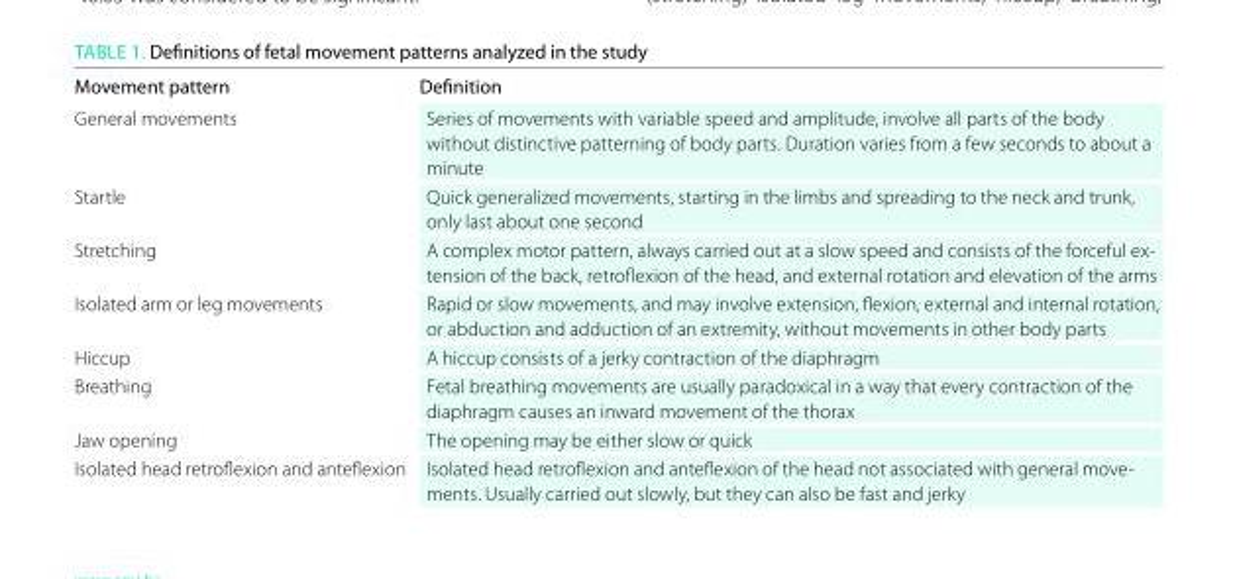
<table><thead><tr><td>movement pattern</td><td>Definition</td></tr></thead><tbody><tr><td>General movements</td><td>Series of movements with variable speed and amplitude, involve all parts of the body without distinctive patterning of body parts. Duration varies from a few seconds to about a minute</td></tr><tr><td>Startle</td><td>Quick generalized movements, starting in the limbs and spreading to the neck and trunk, only last about one second</td></tr><tr><td>Stretching</td><td>A complex motor pattern, always carried out at a slow speed and consists of the forceful ex- tension of the back, retroflexion of the head, and external rotation and elevation of the arms</td></tr><tr><td>Isolated arm or leg movements</td><td>Rapid or slow movements, and may involve extension, flexion, external and internal rotation, or abduction and adduction of an extremity, without movements in other body parts</td></tr><tr><td>Hiccup</td><td>A hiccup consists of a jerky contraction of the diaphragm</td></tr><tr><td>Breathing</td><td>Fetal breathing movements are usually paradoxical in a way that every contraction of the diaphragm causes an inward movement of the thorax</td></tr><tr><td>Jaw opening</td><td>The opening may be either slow or quick</td></tr><tr><td>Isolated head retroflexion and anteflexion</td><td>Isolated head retroflexion and anteflexion of the head not associated with general move- ments. Usually carried out slowly, but they can also be fast and jerky</td></tr></tbody></table>